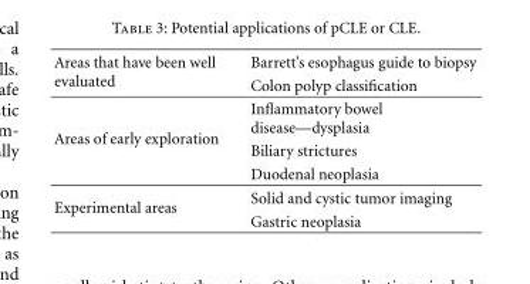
<table><tbody><tr><td rowspan="2">Areas that have been well evaluated</td><td>Barrett’s esophagus guide to biopsy</td></tr><tr><td>Colon polyp classification</td></tr><tr><td rowspan="3">Areas of early exploration</td><td>Inflammatory bowel disease—dysplasia</td></tr><tr><td>Biliary strictures</td></tr><tr><td>Duodenal neoplasia</td></tr><tr><td rowspan="2">Experimental areas</td><td>Solid and cystic tumor imaging</td></tr><tr><td>Gastric neoplasia</td></tr></tbody></table>